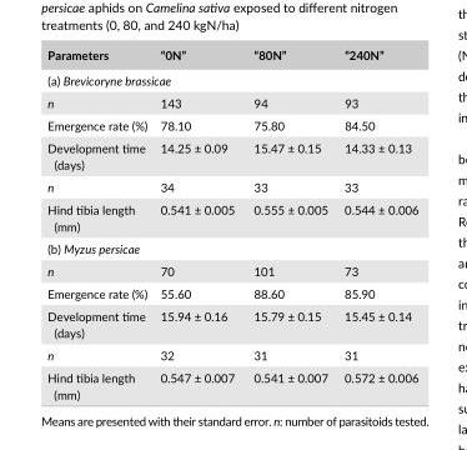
<table><thead><tr><td>Parameters</td><td>“0N”</td><td>“80N”</td><td>“240N”</td></tr></thead><tbody><tr><td colspan="4">(a) Brevicoryne brassicae</td></tr><tr><td>n</td><td>143</td><td>94</td><td>93</td></tr><tr><td>Emergence rate (%)</td><td>78.10</td><td>75.80</td><td>84.50</td></tr><tr><td>Development time (days)</td><td>14.25 ± 0.09</td><td>15.47 ± 0.15</td><td>14.33 ± 0.13</td></tr><tr><td>n</td><td>34</td><td>33</td><td>33</td></tr><tr><td>Hind tibia length (mm)</td><td>0.541 ± 0.005</td><td>0.555 ± 0.005</td><td>0.544 ± 0.006</td></tr><tr><td colspan="4">(b) Myzus persicae</td></tr><tr><td>n</td><td>70</td><td>101</td><td>73</td></tr><tr><td>Emergence rate (%)</td><td>55.60</td><td>88.60</td><td>85.90</td></tr><tr><td>Development time (days)</td><td>15.94 ± 0.16</td><td>15.79 ± 0.15</td><td>15.45 ± 0.14</td></tr><tr><td>n</td><td>32</td><td>31</td><td>31</td></tr><tr><td>Hind tibia length (mm)</td><td>0.547 ± 0.007</td><td>0.541 ± 0.007</td><td>0.572 ± 0.006</td></tr></tbody></table>